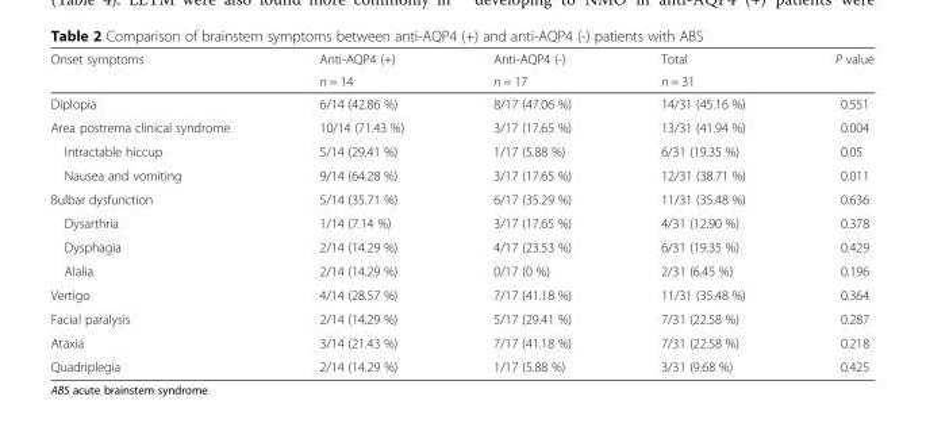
<table><thead><tr><td rowspan="2">Onset symptoms</td><td rowspan="2">Anti-AQP4 (+) n = 14</td><td rowspan="2">Anti-AQP4 (-) n = 17</td><td rowspan="2">Total n = 31</td><td rowspan="2">P value</td></tr><tr></tr></thead><tbody><tr><td>Diplopia</td><td>6/14 (42.86 %)</td><td>8/17 (47.06 %)</td><td>14/31 (45.16 %)</td><td>0.551</td></tr><tr><td>Area postrema clinical syndrome</td><td>10/14 (71.43 %)</td><td>3/17 (17.65 %)</td><td>13/31 (41.94 %)</td><td>0.004</td></tr><tr><td>Intractable hiccup</td><td>5/14 (29.41 %)</td><td>1/17 (5.88 %)</td><td>6/31 (19.35 %)</td><td>0.05</td></tr><tr><td>Nausea and vomiting</td><td>9/14 (64.28 %)</td><td>3/17 (17.65 %)</td><td>12/31 (38.71 %)</td><td>0.011</td></tr><tr><td>Bulbar dysfunction</td><td>5/14 (35.71 %)</td><td>6/17 (35.29 %)</td><td>11/31 (35.48 %)</td><td>0.636</td></tr><tr><td>Dysarthria</td><td>1/14 (7.14 %)</td><td>3/17 (17.65 %)</td><td>4/31 (12.90 %)</td><td>0.378</td></tr><tr><td>Dysphagia</td><td>2/14 (14.29 %)</td><td>4/17 (23.53 %)</td><td>6/31 (19.35 %)</td><td>0.429</td></tr><tr><td>Alalia</td><td>2/14 (14.29 %)</td><td>0/17 (0 %)</td><td>2/31 (6.45 %)</td><td>0.196</td></tr><tr><td>Vertigo</td><td>4/14 (28.57 %)</td><td>7/17 (41.18 %)</td><td>11/31 (35.48 %)</td><td>0.364</td></tr><tr><td>Facial paralysis</td><td>2/14 (14.29 %)</td><td>5/17 (29.41 %)</td><td>7/31 (22.58 %)</td><td>0.287</td></tr><tr><td>Ataxia</td><td>3/14 (21.43 %)</td><td>7/17 (41.18 %)</td><td>7/31 (22.58 %)</td><td>0.218</td></tr><tr><td>Quadriplegia</td><td>2/14 (14.29 %)</td><td>1/17 (5.88 %)</td><td>3/31 (9.68 %)</td><td>0.425</td></tr></tbody></table>